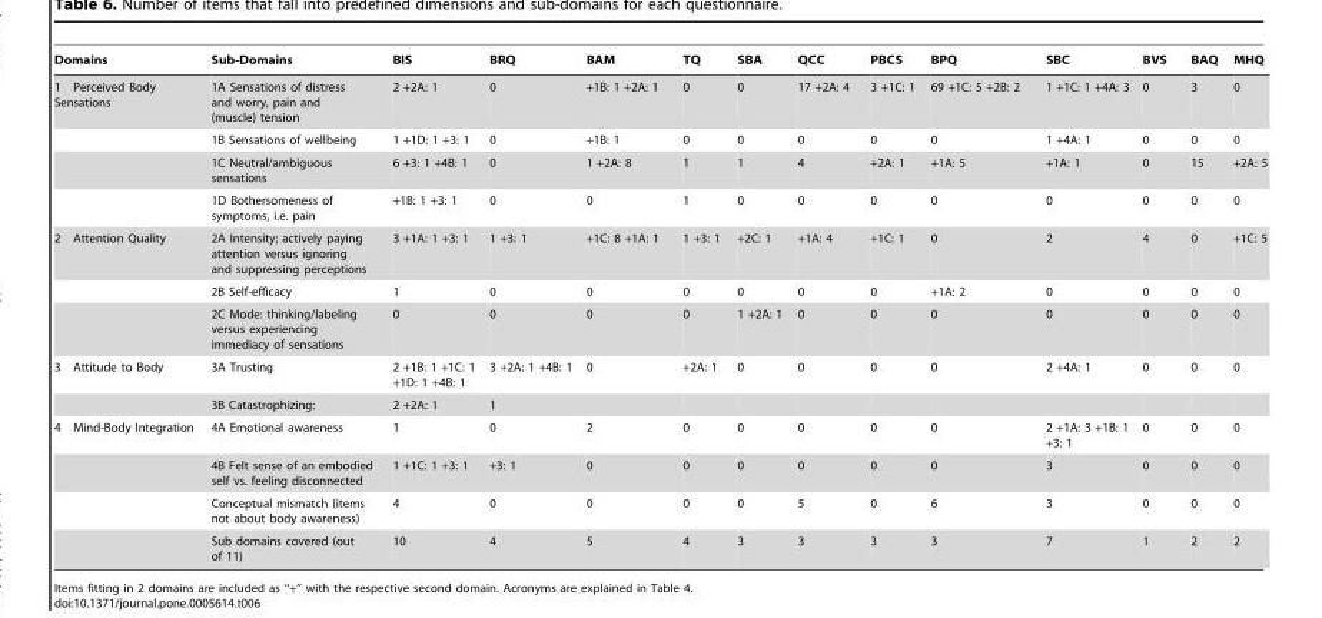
<table><thead><tr><td>Domains</td><td>Sub-Domains</td><td>BIS</td><td>BRQ</td><td>BAM</td><td>TQ</td><td>SBA</td><td>QCC</td><td>PBCS</td><td>BPQ</td><td>SBC</td><td>BVS</td><td>BAQ</td><td>MHQ</td></tr></thead><tbody><tr><td rowspan="4">1 Perceived Body Sensations</td><td>1A Sensations of distress and worry, pain and (muscle) tension</td><td>2 +2A: 1</td><td>0</td><td>+1B: 1 +2A: 1</td><td>0</td><td>0</td><td>17 +2A: 4</td><td>3 +1C: 1</td><td>69 +1C: 5 +2B: 2</td><td>1 +1C: 1 +4A: 3</td><td>0</td><td>3</td><td>0</td></tr><tr><td>1B Sensations of wellbeing</td><td>1 +1D: 1 +3: 1</td><td>0</td><td>+1B: 1</td><td>0</td><td>0</td><td>0</td><td>0</td><td>0</td><td>1 +4A: 1</td><td>0</td><td>0</td><td>0</td></tr><tr><td>1C Neutral/ambiguous sensations</td><td>6 +3: 1 +4B: 1</td><td>0</td><td>1 +2A: 8</td><td>1</td><td>1</td><td>4</td><td>+2A: 1</td><td>+1A: 5</td><td>+1A: 1</td><td>0</td><td>15</td><td>+2A: 5</td></tr><tr><td>1D Bothersomeness of symptoms, i.e. pain</td><td>+1B: 1 +3: 1</td><td>0</td><td>0</td><td>1</td><td>0</td><td>0</td><td>0</td><td>0</td><td>0</td><td>0</td><td>0</td><td>0</td></tr><tr><td rowspan="3">2 Attention Quality</td><td>2A Intensity; actively paying attention versus ignoring and suppressing perceptions</td><td>3 +1A: 1 +3: 1</td><td>1 +3: 1</td><td>+1C: 8 +1A: 1</td><td>1 +3: 1</td><td>+2C: 1</td><td>+1A: 4</td><td>+1C: 1</td><td>0</td><td>2</td><td>4</td><td>0</td><td>+1C: 5</td></tr><tr><td>2B Self-efficacy</td><td>1</td><td>0</td><td>0</td><td>0</td><td>0</td><td>0</td><td>0</td><td>+1A: 2</td><td>0</td><td>0</td><td>0</td><td>0</td></tr><tr><td>2C Mode: thinking/labeling versus experiencing immediacy of sensations</td><td>0</td><td>0</td><td>0</td><td>0</td><td>1 +2A: 1</td><td>0</td><td>0</td><td>0</td><td>0</td><td>0</td><td>0</td><td>0</td></tr><tr><td rowspan="2">3 Attitude to Body</td><td>3A Trusting</td><td>2 +1B: 1 +1C: 1 +1D: 1 +4B: 1</td><td>3 +2A: 1 +4B: 1</td><td>0</td><td>+2A: 1</td><td>0</td><td>0</td><td>0</td><td>0</td><td>2 +4A: 1</td><td>0</td><td>0</td><td>0</td></tr><tr><td>3B Catastrophizing:</td><td>2 +2A: 1</td><td>1</td><td></td><td></td><td></td><td></td><td></td><td></td><td></td><td></td><td></td><td></td></tr><tr><td rowspan="4">4 Mind-Body Integration</td><td>4A Emotional awareness</td><td>1</td><td>0</td><td>2</td><td>0</td><td>0</td><td>0</td><td>0</td><td>0</td><td>2 +1A: 3 +1B: 1 +3: 1</td><td>0</td><td>0</td><td>0</td></tr><tr><td>4B Felt sense of an embodied self vs. feeling disconnected</td><td>1 +1C: 1 +3: 1</td><td>+3: 1</td><td>0</td><td>0</td><td>0</td><td>0</td><td>0</td><td>0</td><td>3</td><td>0</td><td>0</td><td>0</td></tr><tr><td>Conceptual mismatch (items not about body awareness)</td><td>4</td><td>0</td><td>0</td><td>0</td><td>0</td><td>5</td><td>0</td><td>6</td><td>3</td><td>0</td><td>0</td><td>0</td></tr><tr><td>Sub domains covered (out of 11)</td><td>10</td><td>4</td><td>5</td><td>4</td><td>3</td><td>3</td><td>3</td><td>3</td><td>7</td><td>1</td><td>2</td><td>2</td></tr></tbody></table>